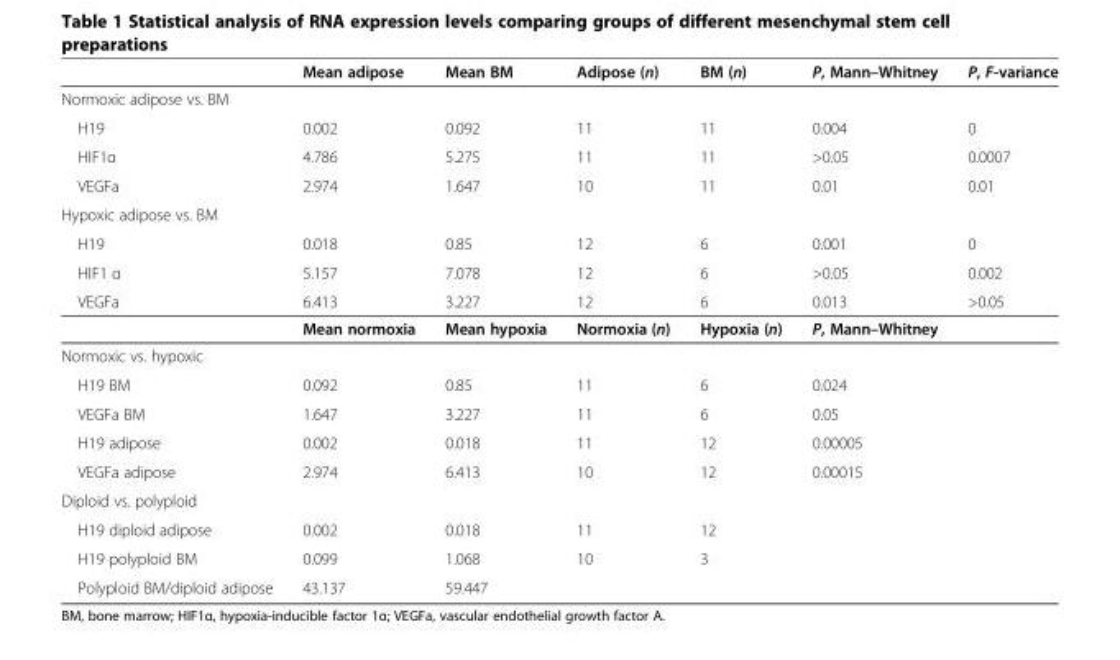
<table><thead><tr><td></td><td>Mean adipose</td><td>Mean BM</td><td>Adipose (n)</td><td>BM (n)</td><td>P, Mann–Whitney</td><td>P, F-variance</td></tr></thead><tbody><tr><td colspan="7">Normoxic adipose vs. BM</td></tr><tr><td>H19</td><td>0.002</td><td>0.092</td><td>11</td><td>11</td><td>0.004</td><td>0</td></tr><tr><td>HIF1α</td><td>4.786</td><td>5.275</td><td>11</td><td>11</td><td>&gt;0.05</td><td>0.0007</td></tr><tr><td>VEGFa</td><td>2.974</td><td>1.647</td><td>10</td><td>11</td><td>0.01</td><td>0.01</td></tr><tr><td colspan="7">Hypoxic adipose vs. BM</td></tr><tr><td>H19</td><td>0.018</td><td>0.85</td><td>12</td><td>6</td><td>0.001</td><td>0</td></tr><tr><td>HIF1 α</td><td>5.157</td><td>7.078</td><td>12</td><td>6</td><td>&gt;0.05</td><td>0.002</td></tr><tr><td rowspan="2">VEGFa</td><td>6.413</td><td>3.227</td><td>12</td><td>6</td><td>0.013</td><td>&gt;0.05</td></tr><tr><td>Mean normoxia</td><td>Mean hypoxia</td><td>Normoxia (n)</td><td>Hypoxia (n)</td><td>P, Mann–Whitney</td><td></td></tr><tr><td colspan="7">Normoxic vs. hypoxic</td></tr><tr><td>H19 BM</td><td>0.092</td><td>0.85</td><td>11</td><td>6</td><td>0.024</td><td></td></tr><tr><td>VEGFa BM</td><td>1.647</td><td>3.227</td><td>11</td><td>6</td><td>0.05</td><td></td></tr><tr><td>H19 adipose</td><td>0.002</td><td>0.018</td><td>11</td><td>12</td><td>0.00005</td><td></td></tr><tr><td>VEGFa adipose</td><td>2.974</td><td>6.413</td><td>10</td><td>12</td><td>0.00015</td><td></td></tr><tr><td colspan="7">Diploid vs. polyploid</td></tr><tr><td>H19 diploid adipose</td><td>0.002</td><td>0.018</td><td>11</td><td>12</td><td></td><td></td></tr><tr><td>H19 polyploid BM</td><td>0.099</td><td>1.068</td><td>10</td><td>3</td><td></td><td></td></tr><tr><td>Polyploid BM/diploid adipose</td><td>43.137</td><td>59.447</td><td></td><td></td><td></td><td></td></tr></tbody></table>